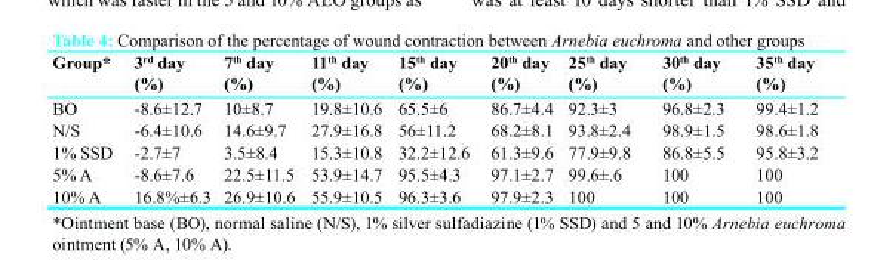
<table><thead><tr><td>Group*</td><td>3<sup>rd</sup> day (%)</td><td>7<sup>th</sup> day (%)</td><td>11<sup>th</sup> day (%)</td><td>15<sup>th</sup> day (%)</td><td>20<sup>th</sup> day (%)</td><td>25<sup>th</sup> day (%)</td><td>30<sup>th</sup> day (%)</td><td>35<sup>th</sup> day (%)</td></tr></thead><tbody><tr><td>BO</td><td>-8.6±12.7</td><td>10±8.7</td><td>19.8±10.6</td><td>65.5±6</td><td>86.7±4.4</td><td>92.3±3</td><td>96.8±2.3</td><td>99.4±1.2</td></tr><tr><td>N/S</td><td>-6.4±10.6</td><td>14.6±9.7</td><td>27.9±16.8</td><td>56±11.2</td><td>68.2±8.1</td><td>93.8±2.4</td><td>98.9±1.5</td><td>98.6±1.8</td></tr><tr><td>1% SSD</td><td>-2.7±7</td><td>3.5±8.4</td><td>15.3±10.8</td><td>32.2±12.6</td><td>61.3±9.6</td><td>77.9±9.8</td><td>86.8±5.5</td><td>95.8±3.2</td></tr><tr><td>5% A</td><td>-8.6±7.6</td><td>22.5±11.5</td><td>53.9±14.7</td><td>95.5±4.3</td><td>97.1±2.7</td><td>99.6±.6</td><td>100</td><td>100</td></tr><tr><td>10% A</td><td>16.8%±6.3</td><td>26.9±10.6</td><td>55.9±10.5</td><td>96.3±3.6</td><td>97.9±2.3</td><td>100</td><td>100</td><td>100</td></tr></tbody></table>